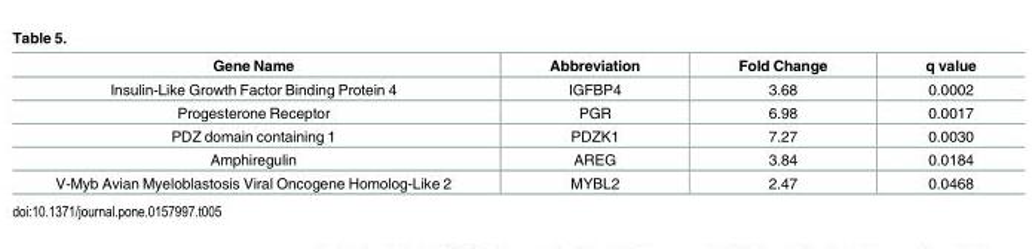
<table><thead><tr><td>Gene Name</td><td>Abbreviation</td><td>Fold Change</td><td>q value</td></tr></thead><tbody><tr><td>Insulin-Like Growth Factor Binding Protein 4</td><td>IGFBP4</td><td>3.68</td><td>0.0002</td></tr><tr><td>Progesterone Receptor</td><td>PGR</td><td>6.98</td><td>0.0017</td></tr><tr><td>PDZ domain containing 1</td><td>PDZK1</td><td>7.27</td><td>0.0030</td></tr><tr><td>Amphiregulin</td><td>AREG</td><td>3.84</td><td>0.0184</td></tr><tr><td>V-Myb Avian Myeloblastosis Viral Oncogene Homolog-Like 2</td><td>MYBL2</td><td>2.47</td><td>0.0468</td></tr></tbody></table>